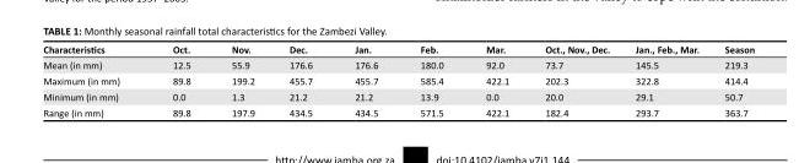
<table><thead><tr><td>Characteristics</td><td>Oct.</td><td>Nov.</td><td>Dec.</td><td>Jan.</td><td>Feb.</td><td>Mar.</td><td>Oct., Nov., Dec.</td><td>Jan., Feb., Mar.</td><td>Season</td></tr></thead><tbody><tr><td>Mean (in mm)</td><td>12.5</td><td>55.9</td><td>176.6</td><td>176.6</td><td>180.0</td><td>92.0</td><td>73.7</td><td>145.5</td><td>219.3</td></tr><tr><td>Maximum (in mm)</td><td>89.8</td><td>199.2</td><td>455.7</td><td>455.7</td><td>585.4</td><td>422.1</td><td>202.3</td><td>322.8</td><td>414.4</td></tr><tr><td>Minimum (in mm)</td><td>0.0</td><td>1.3</td><td>21.2</td><td>21.2</td><td>13.9</td><td>0.0</td><td>20.0</td><td>29.1</td><td>50.7</td></tr><tr><td>Range (in mm)</td><td>89.8</td><td>197.9</td><td>434.5</td><td>434.5</td><td>571.5</td><td>422.1</td><td>182.4</td><td>293.7</td><td>363.7</td></tr></tbody></table>